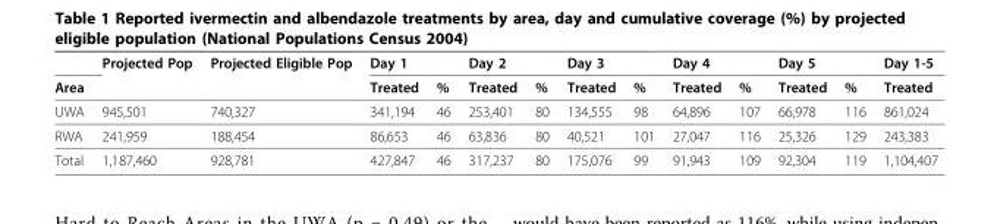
<table><thead><tr><td rowspan="2">Area</td><td rowspan="2">Projected Pop</td><td rowspan="2">Projected Eligible Pop</td><td colspan="2">Day 1</td><td colspan="2">Day 2</td><td colspan="2">Day 3</td><td colspan="2">Day 4</td><td colspan="2">Day 5</td><td rowspan="2">Day 1-5 Treated</td></tr><tr><td>Treated</td><td>%</td><td>Treated</td><td>%</td><td>Treated</td><td>%</td><td>Treated</td><td>%</td><td>Treated</td><td>%</td></tr></thead><tbody><tr><td>UWA</td><td>945,501</td><td>740,327</td><td>341,194</td><td>46</td><td>253,401</td><td>80</td><td>134,555</td><td>98</td><td>64,896</td><td>107</td><td>66,978</td><td>116</td><td>861,024</td></tr><tr><td>RWA</td><td>241,959</td><td>188,454</td><td>86,653</td><td>46</td><td>63,836</td><td>80</td><td>40,521</td><td>101</td><td>27,047</td><td>116</td><td>25,326</td><td>129</td><td>243,383</td></tr><tr><td>Total</td><td>1,187,460</td><td>928,781</td><td>427,847</td><td>46</td><td>317,237</td><td>80</td><td>175,076</td><td>99</td><td>91,943</td><td>109</td><td>92,304</td><td>119</td><td>1,104,407</td></tr></tbody></table>